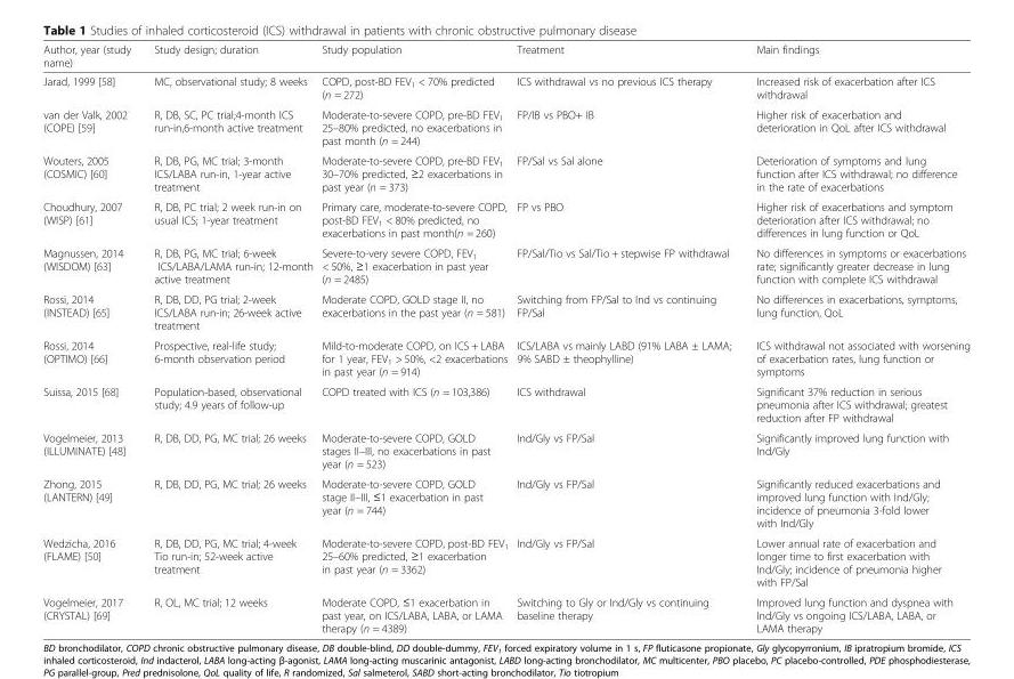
<table><thead><tr><td>Author, year (study name)</td><td>Study design; duration</td><td>Study population</td><td>Treatment</td><td>Main findings</td></tr></thead><tbody><tr><td>Jarad, 1999 [58]</td><td>MC, observational study; 8 weeks</td><td>COPD, post-BD FEV<sub>1</sub> &lt; 70% predicted (n = 272)</td><td>ICS withdrawal vs no previous ICS therapy</td><td>Increased risk of exacerbation after ICS withdrawal</td></tr><tr><td>van der Valk, 2002 (COPE) [59]</td><td>R, DB, SC, PC trial;4-month ICS run-in,6-month active treatment</td><td>Moderate-to-severe COPD, pre-BD FEV<sub>1</sub> 25–80% predicted, no exacerbations in past month (n = 244)</td><td>FP/IB vs PBO+ IB</td><td>Higher risk of exacerbation and deterioration in QoL after ICS withdrawal</td></tr><tr><td>Wouters, 2005 (COSMIC) [60]</td><td>R, DB, PG, MC trial; 3-month ICS/LABA run-in, 1-year active treatment</td><td>Moderate-to-severe COPD, pre-BD FEV<sub>1</sub> 30–70% predicted, ≥2 exacerbations in past year (n = 373)</td><td>FP/Sal vs Sal alone</td><td>Deterioration of symptoms and lung function after ICS withdrawal; no difference in the rate of exacerbations</td></tr><tr><td>Choudhury, 2007 (WISP) [61]</td><td>R, DB, PC trial; 2 week run-in on usual ICS; 1-year treatment</td><td>Primary care, moderate-to-severe COPD, post-BD FEV<sub>1</sub> &lt; 80% predicted, no exacerbations in past month(n = 260)</td><td>FP vs PBO</td><td>Higher risk of exacerbations and symptom deterioration after ICS withdrawal; no differences in lung function or QoL</td></tr><tr><td>Magnussen, 2014 (WISDOM) [63]</td><td>R, DB, PG, MC trial; 6-week ICS/LABA/LAMA run-in; 12-month active treatment</td><td>Severe-to-very severe COPD, FEV<sub>1</sub> &lt; 50%, ≥1 exacerbation in past year (n = 2485)</td><td>FP/Sal/Tio vs Sal/Tio + stepwise FP withdrawal</td><td>No differences in symptoms or exacerbations rate; significantly greater decrease in lung function with complete ICS withdrawal</td></tr><tr><td>Rossi, 2014 (INSTEAD) [65]</td><td>R, DB, DD, PG trial; 2-week ICS/LABA run-in; 26-week active treatment</td><td>Moderate COPD, GOLD stage II, no exacerbations in the past year (n = 581)</td><td>Switching from FP/Sal to Ind vs continuing FP/Sal</td><td>No differences in exacerbations, symptoms, lung function, QoL</td></tr><tr><td>Rossi, 2014 (OPTIMO) [66]</td><td>Prospective, real-life study; 6-month observation period</td><td>Mild-to-moderate COPD, on ICS + LABA for 1 year, FEV<sub>1</sub> &gt; 50%, &lt;2 exacerbations in past year (n = 914)</td><td>ICS/LABA vs mainly LABD (91% LABA ± LAMA; 9% SABD ± theophylline)</td><td>ICS withdrawal not associated with worsening of exacerbation rates, lung function or symptoms</td></tr><tr><td>Suissa, 2015 [68]</td><td>Population-based, observational study; 4.9 years of follow-up</td><td>COPD treated with ICS (n = 103,386)</td><td>ICS withdrawal</td><td>Significant 37% reduction in serious pneumonia after ICS withdrawal; greatest reduction after FP withdrawal</td></tr><tr><td>Vogelmeier, 2013 (ILLUMINATE) [48]</td><td>R, DB, DD, PG, MC trial; 26 weeks</td><td>Moderate-to-severe COPD, GOLD stages II–III, no exacerbations in past year (n = 523)</td><td>Ind/Gly vs FP/Sal</td><td>Significantly improved lung function with Ind/Gly</td></tr><tr><td>Zhong, 2015 (LANTERN) [49]</td><td>R, DB, DD, PG, MC trial; 26 weeks</td><td>Moderate-to-severe COPD, GOLD stage II–III, ≤1 exacerbation in past year (n = 744)</td><td>Ind/Gly vs FP/Sal</td><td>Significantly reduced exacerbations and improved lung function with Ind/Gly; incidence of pneumonia 3-fold lower with Ind/Gly</td></tr><tr><td>Wedzicha, 2016 (FLAME) [50]</td><td>R, DB, DD, PG, MC trial; 4-week Tio run-in; 52-week active treatment</td><td>Moderate-to-severe COPD, post-BD FEV<sub>1</sub> 25–60% predicted, ≥1 exacerbation in past year (n = 3362)</td><td>Ind/Gly vs FP/Sal</td><td>Lower annual rate of exacerbation and longer time to first exacerbation with Ind/Gly; incidence of pneumonia higher with FP/Sal</td></tr><tr><td>Vogelmeier, 2017 (CRYSTAL) [69]</td><td>R, OL, MC trial; 12 weeks</td><td>Moderate COPD, ≤1 exacerbation in past year, on ICS/LABA, LABA, or LAMA therapy (n = 4389)</td><td>Switching to Gly or Ind/Gly vs continuing baseline therapy</td><td>Improved lung function and dyspnea with Ind/Gly vs ongoing ICS/LABA, LABA, or LAMA therapy</td></tr></tbody></table>